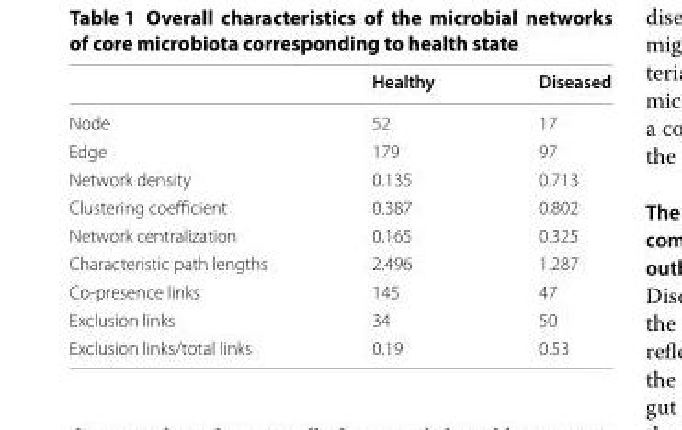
<table><thead><tr><td></td><td>Healthy</td><td>Diseased</td></tr></thead><tbody><tr><td>Node</td><td>52</td><td>17</td></tr><tr><td>Edge</td><td>179</td><td>97</td></tr><tr><td>Network density</td><td>0.135</td><td>0.713</td></tr><tr><td>Clustering coefficient</td><td>0.387</td><td>0.802</td></tr><tr><td>Network centralization</td><td>0.165</td><td>0.325</td></tr><tr><td>Characteristic path lengths</td><td>2.496</td><td>1.287</td></tr><tr><td>Co-presence links</td><td>145</td><td>47</td></tr><tr><td>Exclusion links</td><td>34</td><td>50</td></tr><tr><td>Exclusion links/total links</td><td>0.19</td><td>0.53</td></tr></tbody></table>